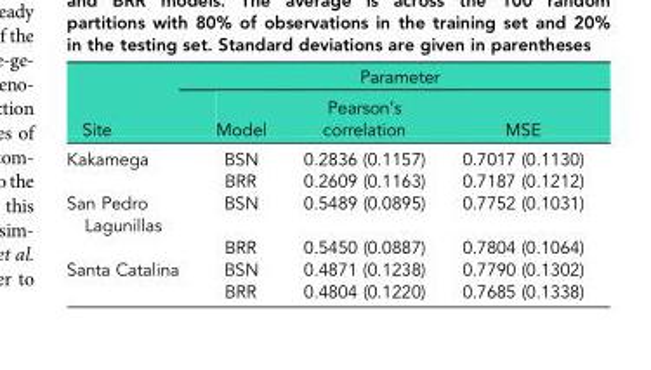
<table><thead><tr><td rowspan="2">Site</td><td colspan="3">Parameter</td></tr><tr><td>Model</td><td>Pearson’s correlation</td><td>MSE</td></tr></thead><tbody><tr><td rowspan="2">Kakamega</td><td>BSN</td><td>0.2836 (0.1157)</td><td>0.7017 (0.1130)</td></tr><tr><td>BRR</td><td>0.2609 (0.1163)</td><td>0.7187 (0.1212)</td></tr><tr><td rowspan="2">San Pedro Lagunillas</td><td>BSN</td><td>0.5489 (0.0895)</td><td>0.7752 (0.1031)</td></tr><tr><td>BRR</td><td>0.5450 (0.0887)</td><td>0.7804 (0.1064)</td></tr><tr><td rowspan="2">Santa Catalina</td><td>BSN</td><td>0.4871 (0.1238)</td><td>0.7790 (0.1302)</td></tr><tr><td>BRR</td><td>0.4804 (0.1220)</td><td>0.7685 (0.1338)</td></tr></tbody></table>